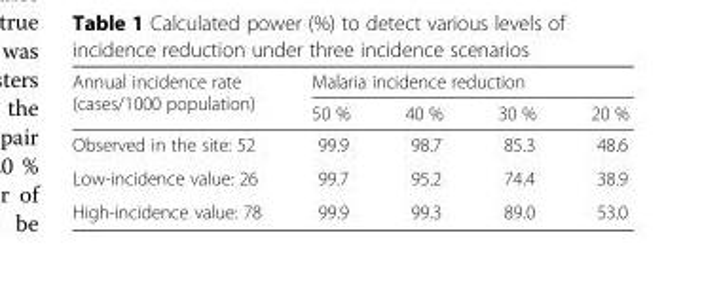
<table><thead><tr><td rowspan="2">Annual incidence rate (cases/1000 population)</td><td colspan="4">Malaria incidence reduction</td></tr><tr><td>50 %</td><td>40 %</td><td>30 %</td><td>20 %</td></tr></thead><tbody><tr><td>Observed in the site: 52</td><td>99.9</td><td>98.7</td><td>85.3</td><td>48.6</td></tr><tr><td>Low-incidence value: 26</td><td>99.7</td><td>95.2</td><td>74.4</td><td>38.9</td></tr><tr><td>High-incidence value: 78</td><td>99.9</td><td>99.3</td><td>89.0</td><td>53.0</td></tr></tbody></table>